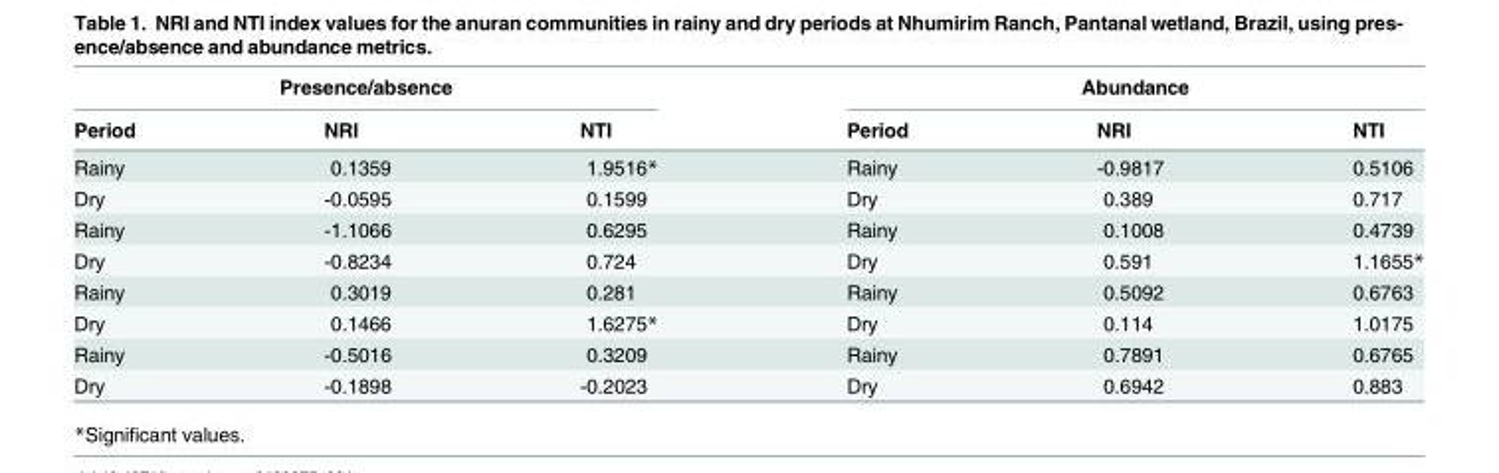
<table><thead><tr><td colspan="3">Presence/absence</td><td colspan="3">Abundance</td></tr><tr><td>Period</td><td>NRI</td><td>NTI</td><td>Period</td><td>NRI</td><td>NTI</td></tr></thead><tbody><tr><td>Rainy</td><td>0.1359</td><td>1.9516*</td><td>Rainy</td><td>-0.9817</td><td>0.5106</td></tr><tr><td>Dry</td><td>-0.0595</td><td>0.1599</td><td>Dry</td><td>0.389</td><td>0.717</td></tr><tr><td>Rainy</td><td>-1.1066</td><td>0.6295</td><td>Rainy</td><td>0.1008</td><td>0.4739</td></tr><tr><td>Dry</td><td>-0.8234</td><td>0.724</td><td>Dry</td><td>0.591</td><td>1.1655*</td></tr><tr><td>Rainy</td><td>0.3019</td><td>0.281</td><td>Rainy</td><td>0.5092</td><td>0.6763</td></tr><tr><td>Dry</td><td>0.1466</td><td>1.6275*</td><td>Dry</td><td>0.114</td><td>1.0175</td></tr><tr><td>Rainy</td><td>-0.5016</td><td>0.3209</td><td>Rainy</td><td>0.7891</td><td>0.6765</td></tr><tr><td>Dry</td><td>-0.1898</td><td>-0.2023</td><td>Dry</td><td>0.6942</td><td>0.883</td></tr></tbody></table>